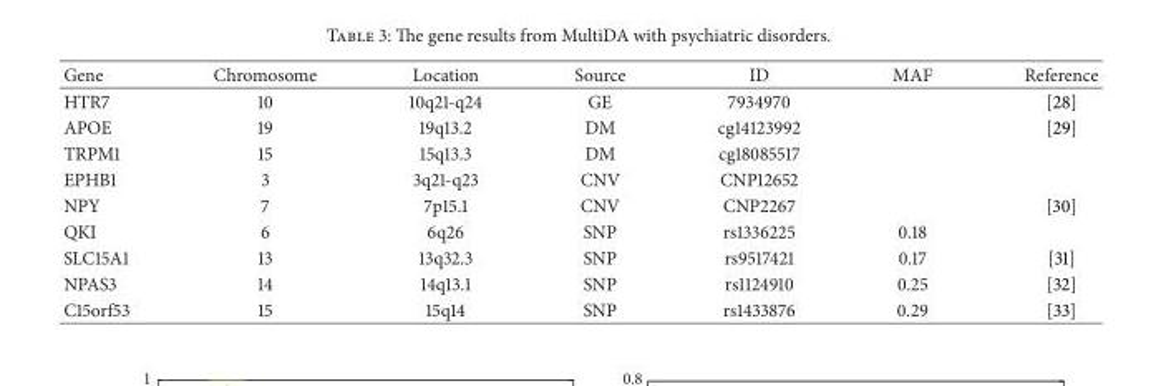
<table><thead><tr><td>Gene</td><td>Chromosome</td><td>Location</td><td>Source</td><td>ID</td><td>MAF</td><td>Reference</td></tr></thead><tbody><tr><td>HTR7</td><td>10</td><td>10q21-q24</td><td>GE</td><td>7934970</td><td></td><td>[28]</td></tr><tr><td>APOE</td><td>19</td><td>19q13.2</td><td>DM</td><td>cg14123992</td><td></td><td>[29]</td></tr><tr><td>TRPM1</td><td>15</td><td>15q13.3</td><td>DM</td><td>cg18085517</td><td></td><td></td></tr><tr><td>EPHB1</td><td>3</td><td>3q21-q23</td><td>CNV</td><td>CNP12652</td><td></td><td></td></tr><tr><td>NPY</td><td>7</td><td>7p15.1</td><td>CNV</td><td>CNP2267</td><td></td><td>[30]</td></tr><tr><td>QKI</td><td>6</td><td>6q26</td><td>SNP</td><td>rs1336225</td><td>0.18</td><td></td></tr><tr><td>SLC15A1</td><td>13</td><td>13q32.3</td><td>SNP</td><td>rs9517421</td><td>0.17</td><td>[31]</td></tr><tr><td>NPAS3</td><td>14</td><td>14q13.1</td><td>SNP</td><td>rs1124910</td><td>0.25</td><td>[32]</td></tr><tr><td>C15orf53</td><td>15</td><td>15q14</td><td>SNP</td><td>rs1433876</td><td>0.29</td><td>[33]</td></tr></tbody></table>